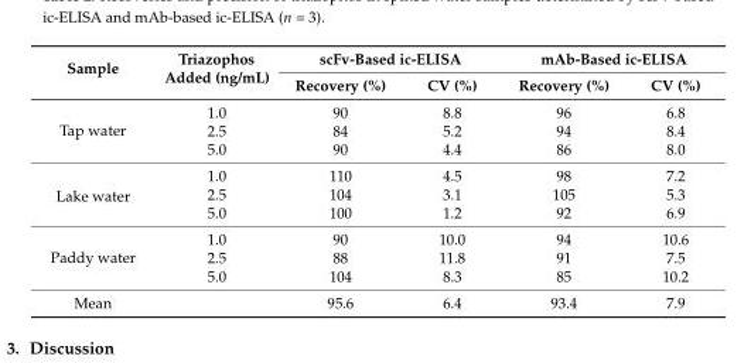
<table><thead><tr><td rowspan="2">Sample</td><td rowspan="2">Triazophos Added (ng/mL)</td><td colspan="2">scFv-Based ic-ELISA</td><td colspan="2">mAb-Based ic-ELISA</td></tr><tr><td>Recovery (%)</td><td>CV (%)</td><td>Recovery (%)</td><td>CV (%)</td></tr></thead><tbody><tr><td rowspan="3">Tap water</td><td>1.0</td><td>90</td><td>8.8</td><td>96</td><td>6.8</td></tr><tr><td>2.5</td><td>84</td><td>5.2</td><td>94</td><td>8.4</td></tr><tr><td>5.0</td><td>90</td><td>4.4</td><td>86</td><td>8.0</td></tr><tr><td rowspan="3">Lake water</td><td>1.0</td><td>110</td><td>4.5</td><td>98</td><td>7.2</td></tr><tr><td>2.5</td><td>104</td><td>3.1</td><td>105</td><td>5.3</td></tr><tr><td>5.0</td><td>100</td><td>1.2</td><td>92</td><td>6.9</td></tr><tr><td rowspan="3">Paddy water</td><td>1.0</td><td>90</td><td>10.0</td><td>94</td><td>10.6</td></tr><tr><td>2.5</td><td>88</td><td>11.8</td><td>91</td><td>7.5</td></tr><tr><td>5.0</td><td>104</td><td>8.3</td><td>85</td><td>10.2</td></tr><tr><td>Mean</td><td></td><td>95.6</td><td>6.4</td><td>93.4</td><td>7.9</td></tr></tbody></table>